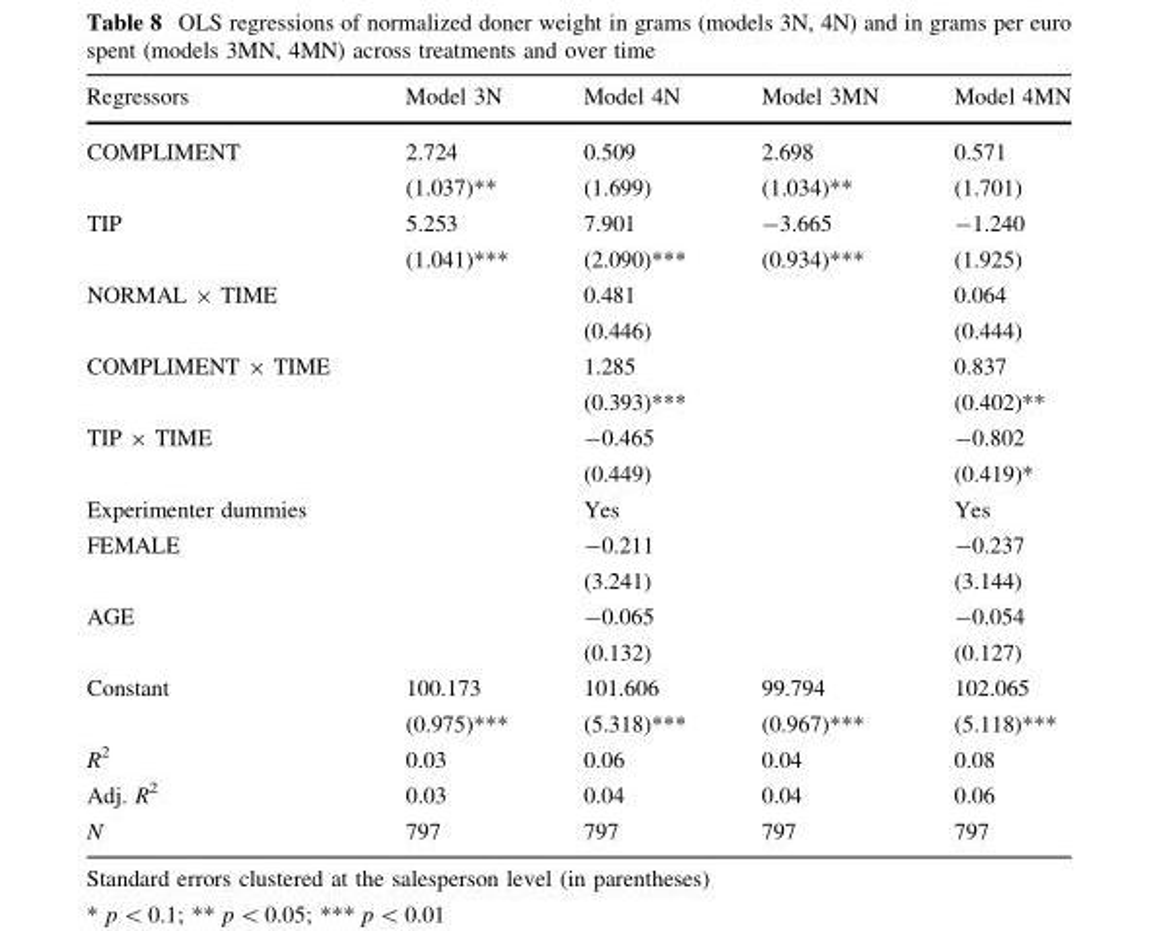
<table><thead><tr><td>Regressors</td><td>Model 3N</td><td>Model 4N</td><td>Model 3MN</td><td>Model 4MN</td></tr></thead><tbody><tr><td rowspan="2">COMPLIMENT</td><td>2.724</td><td>0.509</td><td>2.698</td><td>0.571</td></tr><tr><td>(1.037)**</td><td>(1.699)</td><td>(1.034)**</td><td>(1.701)</td></tr><tr><td rowspan="2">TIP</td><td>5.253</td><td>7.901</td><td>-3.665</td><td>-1.240</td></tr><tr><td>(1.041)***</td><td>(2.090)***</td><td>(0.934)***</td><td>(1.925)</td></tr><tr><td rowspan="2">NORMAL × TIME</td><td></td><td>0.481</td><td></td><td>0.064</td></tr><tr><td></td><td>(0.446)</td><td></td><td>(0.444)</td></tr><tr><td rowspan="2">COMPLIMENT × TIME</td><td></td><td>1.285</td><td></td><td>0.837</td></tr><tr><td></td><td>(0.393)***</td><td></td><td>(0.402)**</td></tr><tr><td rowspan="2">TIP × TIME</td><td></td><td>-0.465</td><td></td><td>-0.802</td></tr><tr><td></td><td>(0.449)</td><td></td><td>(0.419)*</td></tr><tr><td>Experimenter dummies</td><td></td><td>Yes</td><td></td><td>Yes</td></tr><tr><td rowspan="2">FEMALE</td><td></td><td>-0.211</td><td></td><td>-0.237</td></tr><tr><td></td><td>(3.241)</td><td></td><td>(3.144)</td></tr><tr><td rowspan="2">AGE</td><td></td><td>-0.065</td><td></td><td>-0.054</td></tr><tr><td></td><td>(0.132)</td><td></td><td>(0.127)</td></tr><tr><td rowspan="2">Constant</td><td>100.173</td><td>101.606</td><td>99.794</td><td>102.065</td></tr><tr><td>(0.975)***</td><td>(5.318)***</td><td>(0.967)***</td><td>(5.118)***</td></tr><tr><td>R<sup>2</sup></td><td>0.03</td><td>0.06</td><td>0.04</td><td>0.08</td></tr><tr><td>Adj. R<sup>2</sup></td><td>0.03</td><td>0.04</td><td>0.04</td><td>0.06</td></tr><tr><td>N</td><td>797</td><td>797</td><td>797</td><td>797</td></tr></tbody></table>